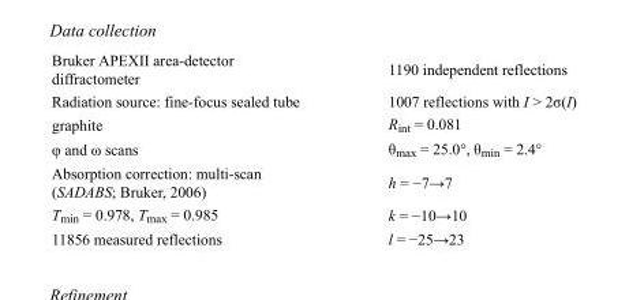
<table><tbody><tr><td>Bruker APEXII area-detector diffractometer</td><td>1190 independent reflections</td></tr><tr><td>Radiation source: fine-focus sealed tube</td><td>1007 reflections with I &gt; 2σ(I)</td></tr><tr><td>graphite</td><td>R<sub>int</sub> = 0.081</td></tr><tr><td>φ and ω scans</td><td>θ<sub>max</sub> = 25.0°, θ<sub>min</sub> = 2.4°</td></tr><tr><td>Absorption correction: multi-scan (SADABS; Bruker, 2006)</td><td>h = −7→7</td></tr><tr><td>T<sub>min</sub> = 0.978, T<sub>max</sub> = 0.985</td><td>k = −10→10</td></tr><tr><td>11856 measured reflections</td><td>l = −25→23</td></tr></tbody></table>